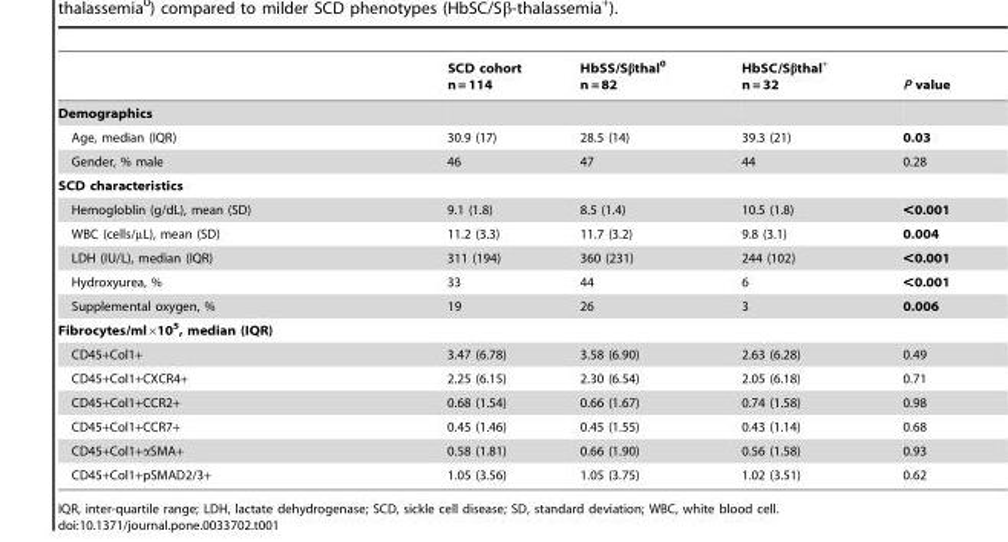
<table><thead><tr><td></td><td>SCD cohort n = 114</td><td>HbSS/Sβthal<sup>0</sup> n = 82</td><td>HbSC/Sβthal<sup>+</sup> n = 32</td><td>P value</td></tr></thead><tbody><tr><td colspan="5">Demographics</td></tr><tr><td>Age, median (IQR)</td><td>30.9 (17)</td><td>28.5 (14)</td><td>39.3 (21)</td><td>0.03</td></tr><tr><td>Gender, % male</td><td>46</td><td>47</td><td>44</td><td>0.28</td></tr><tr><td colspan="5">SCD characteristics</td></tr><tr><td>Hemogloblin (g/dL), mean (SD)</td><td>9.1 (1.8)</td><td>8.5 (1.4)</td><td>10.5 (1.8)</td><td>&lt;0.001</td></tr><tr><td>WBC (cells/µL), mean (SD)</td><td>11.2 (3.3)</td><td>11.7 (3.2)</td><td>9.8 (3.1)</td><td>0.004</td></tr><tr><td>LDH (IU/L), median (IQR)</td><td>311 (194)</td><td>360 (231)</td><td>244 (102)</td><td>&lt;0.001</td></tr><tr><td>Hydroxyurea, %</td><td>33</td><td>44</td><td>6</td><td>&lt;0.001</td></tr><tr><td>Supplemental oxygen, %</td><td>19</td><td>26</td><td>3</td><td>0.006</td></tr><tr><td colspan="5">Fibrocytes/ml×10<sup>5</sup>, median (IQR)</td></tr><tr><td>CD45+Col1+</td><td>3.47 (6.78)</td><td>3.58 (6.90)</td><td>2.63 (6.28)</td><td>0.49</td></tr><tr><td>CD45+Col1+CXCR4+</td><td>2.25 (6.15)</td><td>2.30 (6.54)</td><td>2.05 (6.18)</td><td>0.71</td></tr><tr><td>CD45+Col1+CCR2+</td><td>0.68 (1.54)</td><td>0.66 (1.67)</td><td>0.74 (1.58)</td><td>0.98</td></tr><tr><td>CD45+Col1+CCR7+</td><td>0.45 (1.46)</td><td>0.45 (1.55)</td><td>0.43 (1.14)</td><td>0.68</td></tr><tr><td>CD45+Col1+αSMA+</td><td>0.58 (1.81)</td><td>0.66 (1.90)</td><td>0.56 (1.58)</td><td>0.93</td></tr><tr><td>CD45+Col1+pSMAD2/3+</td><td>1.05 (3.56)</td><td>1.05 (3.75)</td><td>1.02 (3.51)</td><td>0.62</td></tr></tbody></table>